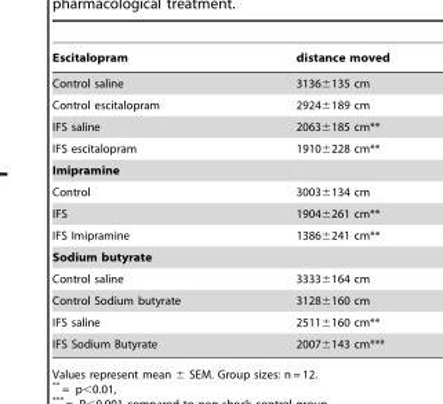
<table><thead><tr><td>Escitalopram</td><td>distance moved</td></tr></thead><tbody><tr><td>Control saline</td><td>3136±135 cm</td></tr><tr><td>Control escitalopram</td><td>2924±189 cm</td></tr><tr><td>IFS saline</td><td>2063±185 cm**</td></tr><tr><td>IFS escitalopram</td><td>1910±228 cm**</td></tr><tr><td colspan="2">Imipramine</td></tr><tr><td>Control</td><td>3003±134 cm</td></tr><tr><td>IFS</td><td>1904±261 cm**</td></tr><tr><td>IFS Imipramine</td><td>1386±241 cm**</td></tr><tr><td colspan="2">Sodium butyrate</td></tr><tr><td>Control saline</td><td>3333±164 cm</td></tr><tr><td>Control Sodium butyrate</td><td>3128±160 cm</td></tr><tr><td>IFS saline</td><td>2511±160 cm**</td></tr><tr><td>IFS Sodium Butyrate</td><td>2007±143 cm***</td></tr></tbody></table>